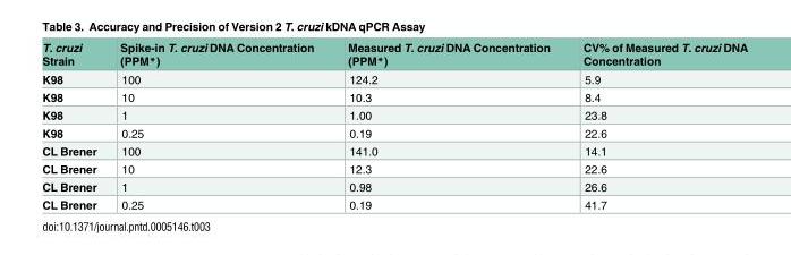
<table><thead><tr><td>T. cruzi Strain</td><td>Spike-in T. cruzi DNA Concentration (PPM*)</td><td>Measured T. cruzi DNA Concentration (PPM*)</td><td>CV% of Measured T. cruzi DNA Concentration</td></tr></thead><tbody><tr><td>K98</td><td>100</td><td>124.2</td><td>5.9</td></tr><tr><td>K98</td><td>10</td><td>10.3</td><td>8.4</td></tr><tr><td>K98</td><td>1</td><td>1.00</td><td>23.8</td></tr><tr><td>K98</td><td>0.25</td><td>0.19</td><td>22.6</td></tr><tr><td>CL Brener</td><td>100</td><td>141.0</td><td>14.1</td></tr><tr><td>CL Brener</td><td>10</td><td>12.3</td><td>22.6</td></tr><tr><td>CL Brener</td><td>1</td><td>0.98</td><td>26.6</td></tr><tr><td>CL Brener</td><td>0.25</td><td>0.19</td><td>41.7</td></tr></tbody></table>